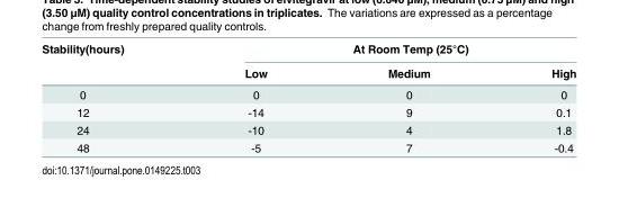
<table><thead><tr><td rowspan="2">Stability(hours)</td><td colspan="3">At Room Temp (25°C)</td></tr><tr><td>Low</td><td>Medium</td><td>High</td></tr></thead><tbody><tr><td>0</td><td>0</td><td>0</td><td>0</td></tr><tr><td>12</td><td>-14</td><td>9</td><td>0.1</td></tr><tr><td>24</td><td>-10</td><td>4</td><td>1.8</td></tr><tr><td>48</td><td>-5</td><td>7</td><td>-0.4</td></tr></tbody></table>